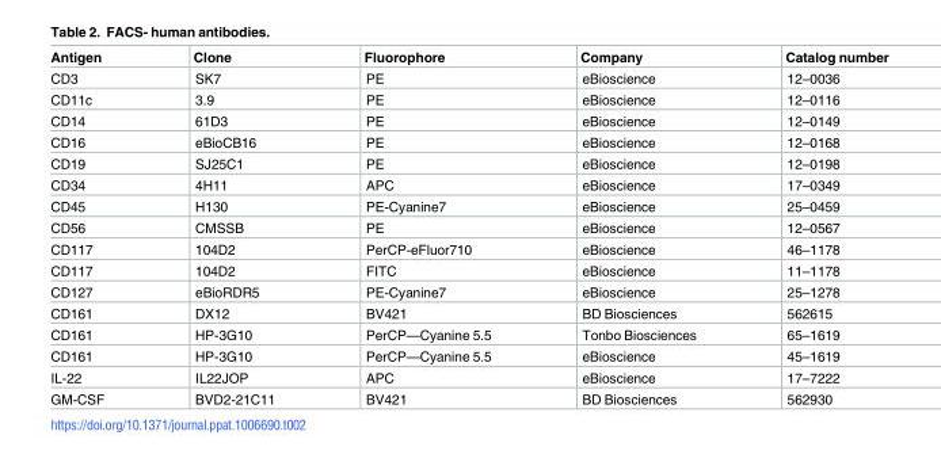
<table><thead><tr><td>Antigen</td><td>Clone</td><td>Fluorophore</td><td>Company</td><td>Catalog number</td></tr></thead><tbody><tr><td>CD3</td><td>SK7</td><td>PE</td><td>eBioscience</td><td>12–0036</td></tr><tr><td>CD11c</td><td>3.9</td><td>PE</td><td>eBioscience</td><td>12–0116</td></tr><tr><td>CD14</td><td>61D3</td><td>PE</td><td>eBioscience</td><td>12–0149</td></tr><tr><td>CD16</td><td>eBioCB16</td><td>PE</td><td>eBioscience</td><td>12–0168</td></tr><tr><td>CD19</td><td>SJ25C1</td><td>PE</td><td>eBioscience</td><td>12–0198</td></tr><tr><td>CD34</td><td>4H11</td><td>APC</td><td>eBioscience</td><td>17–0349</td></tr><tr><td>CD45</td><td>H130</td><td>PE-Cyanine7</td><td>eBioscience</td><td>25–0459</td></tr><tr><td>CD56</td><td>CMSSB</td><td>PE</td><td>eBioscience</td><td>12–0567</td></tr><tr><td>CD117</td><td>104D2</td><td>PerCP-eFluor710</td><td>eBioscience</td><td>46–1178</td></tr><tr><td>CD117</td><td>104D2</td><td>FITC</td><td>eBioscience</td><td>11–1178</td></tr><tr><td>CD127</td><td>eBioRDR5</td><td>PE-Cyanine7</td><td>eBioscience</td><td>25–1278</td></tr><tr><td>CD161</td><td>DX12</td><td>BV421</td><td>BD Biosciences</td><td>562615</td></tr><tr><td>CD161</td><td>HP-3G10</td><td>PerCP—Cyanine 5.5</td><td>Tonbo Biosciences</td><td>65–1619</td></tr><tr><td>CD161</td><td>HP-3G10</td><td>PerCP—Cyanine 5.5</td><td>eBioscience</td><td>45–1619</td></tr><tr><td>IL-22</td><td>IL22JOP</td><td>APC</td><td>eBioscience</td><td>17–7222</td></tr><tr><td>GM-CSF</td><td>BVD2-21C11</td><td>BV421</td><td>BD Biosciences</td><td>562930</td></tr></tbody></table>